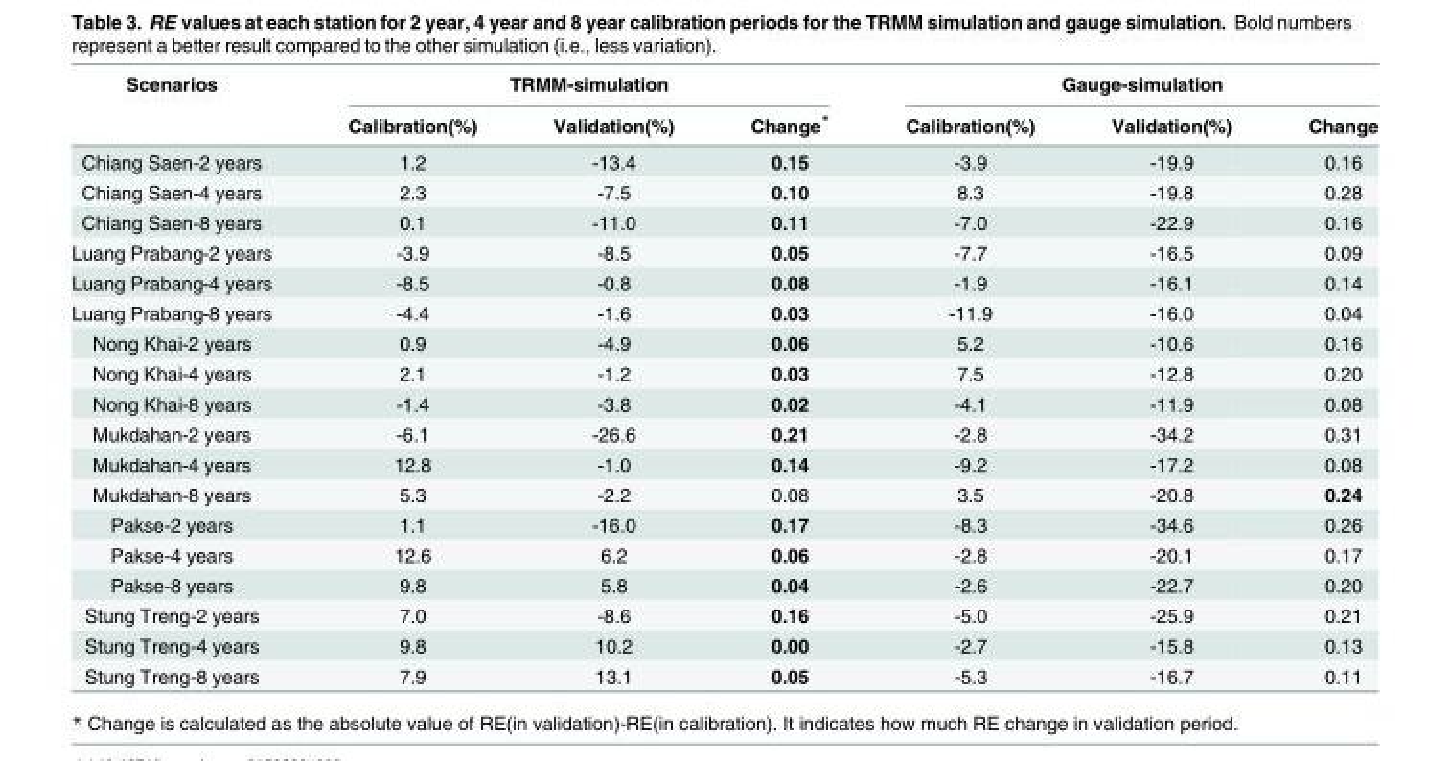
<table><thead><tr><td rowspan="2">Scenarios</td><td colspan="3">TRMM-simulation</td><td colspan="3">Gauge-simulation</td></tr><tr><td>Calibration(%)</td><td>Validation(%)</td><td>Change*</td><td>Calibration(%)</td><td>Validation(%)</td><td>Change</td></tr></thead><tbody><tr><td>Chiang Saen-2 years</td><td>1.2</td><td>-13.4</td><td>0.15</td><td>-3.9</td><td>-19.9</td><td>0.16</td></tr><tr><td>Chiang Saen-4 years</td><td>2.3</td><td>-7.5</td><td>0.10</td><td>8.3</td><td>-19.8</td><td>0.28</td></tr><tr><td>Chiang Saen-8 years</td><td>0.1</td><td>-11.0</td><td>0.11</td><td>-7.0</td><td>-22.9</td><td>0.16</td></tr><tr><td>Luang Prabang-2 years</td><td>-3.9</td><td>-8.5</td><td>0.05</td><td>-7.7</td><td>-16.5</td><td>0.09</td></tr><tr><td>Luang Prabang-4 years</td><td>-8.5</td><td>-0.8</td><td>0.08</td><td>-1.9</td><td>-16.1</td><td>0.14</td></tr><tr><td>Luang Prabang-8 years</td><td>-4.4</td><td>-1.6</td><td>0.03</td><td>-11.9</td><td>-16.0</td><td>0.04</td></tr><tr><td>Nong Khai-2 years</td><td>0.9</td><td>-4.9</td><td>0.06</td><td>5.2</td><td>-10.6</td><td>0.16</td></tr><tr><td>Nong Khai-4 years</td><td>2.1</td><td>-1.2</td><td>0.03</td><td>7.5</td><td>-12.8</td><td>0.20</td></tr><tr><td>Nong Khai-8 years</td><td>-1.4</td><td>-3.8</td><td>0.02</td><td>-4.1</td><td>-11.9</td><td>0.08</td></tr><tr><td>Mukdahan-2 years</td><td>-6.1</td><td>-26.6</td><td>0.21</td><td>-2.8</td><td>-34.2</td><td>0.31</td></tr><tr><td>Mukdahan-4 years</td><td>12.8</td><td>-1.0</td><td>0.14</td><td>-9.2</td><td>-17.2</td><td>0.08</td></tr><tr><td>Mukdahan-8 years</td><td>5.3</td><td>-2.2</td><td>0.08</td><td>3.5</td><td>-20.8</td><td>0.24</td></tr><tr><td>Pakse-2 years</td><td>1.1</td><td>-16.0</td><td>0.17</td><td>-8.3</td><td>-34.6</td><td>0.26</td></tr><tr><td>Pakse-4 years</td><td>12.6</td><td>6.2</td><td>0.06</td><td>-2.8</td><td>-20.1</td><td>0.17</td></tr><tr><td>Pakse-8 years</td><td>9.8</td><td>5.8</td><td>0.04</td><td>-2.6</td><td>-22.7</td><td>0.20</td></tr><tr><td>Stung Treng-2 years</td><td>7.0</td><td>-8.6</td><td>0.16</td><td>-5.0</td><td>-25.9</td><td>0.21</td></tr><tr><td>Stung Treng-4 years</td><td>9.8</td><td>10.2</td><td>0.00</td><td>-2.7</td><td>-15.8</td><td>0.13</td></tr><tr><td>Stung Treng-8 years</td><td>7.9</td><td>13.1</td><td>0.05</td><td>-5.3</td><td>-16.7</td><td>0.11</td></tr></tbody></table>